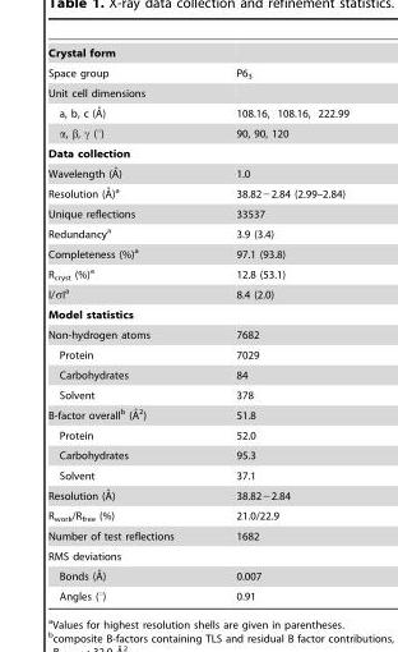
<table><tbody><tr><td colspan="2">Crystal form</td></tr><tr><td>Space group</td><td>P6<sub>3</sub></td></tr><tr><td colspan="2">Unit cell dimensions</td></tr><tr><td>a, b, c (A˚)</td><td>108.16, 108.16, 222.99</td></tr><tr><td>α, β, γ (°)</td><td>90, 90, 120</td></tr><tr><td colspan="2">Data collection</td></tr><tr><td>Wavelength (A˚)</td><td>1.0</td></tr><tr><td>Resolution (A˚)a</td><td>38.82−2.84 (2.99–2.84)</td></tr><tr><td>Unique reflections</td><td>33537</td></tr><tr><td>Redundancy<sup>a</sup></td><td>3.9 (3.4)</td></tr><tr><td>Completeness (%)<sup>a</sup></td><td>97.1 (93.8)</td></tr><tr><td>R<sub>cryst</sub> (%)<sup>a</sup></td><td>12.8 (53.1)</td></tr><tr><td>I/σI<sup>a</sup></td><td>8.4 (2.0)</td></tr><tr><td colspan="2">Model statistics</td></tr><tr><td>Non-hydrogen atoms</td><td>7682</td></tr><tr><td>Protein</td><td>7029</td></tr><tr><td>Carbohydrates</td><td>84</td></tr><tr><td>Solvent</td><td>378</td></tr><tr><td>B-factor overallb (A˚ 2)</td><td>51.8</td></tr><tr><td>Protein</td><td>52.0</td></tr><tr><td>Carbohydrates</td><td>95.3</td></tr><tr><td>Solvent</td><td>37.1</td></tr><tr><td>Resolution (A˚)</td><td>38.82−2.84</td></tr><tr><td>R<sub>work</sub>/R<sub>free</sub> (%)</td><td>21.0/22.9</td></tr><tr><td>Number of test reflections</td><td>1682</td></tr><tr><td colspan="2">RMS deviations</td></tr><tr><td>Bonds (A˚)</td><td>0.007</td></tr><tr><td>Angles (°)</td><td>0.91</td></tr></tbody></table>